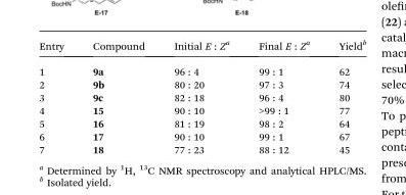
<table><thead><tr><td>Entry</td><td>Compound</td><td>Initial E : Z<sup>a</sup></td><td>Final E : Z<sup>a</sup></td><td>Yield<sup>b</sup></td></tr></thead><tbody><tr><td>1</td><td>9a</td><td>96 : 4</td><td>99 : 1</td><td>62</td></tr><tr><td>2</td><td>9b</td><td>80 : 20</td><td>97 : 3</td><td>74</td></tr><tr><td>3</td><td>9c</td><td>82 : 18</td><td>96 : 4</td><td>80</td></tr><tr><td>4</td><td>15</td><td>90 : 10</td><td>&gt;99 : 1</td><td>77</td></tr><tr><td>5</td><td>16</td><td>81 : 19</td><td>98 : 2</td><td>64</td></tr><tr><td>6</td><td>17</td><td>90 : 10</td><td>99 : 1</td><td>67</td></tr><tr><td>7</td><td>18</td><td>77 : 23</td><td>88 : 12</td><td>45</td></tr></tbody></table>